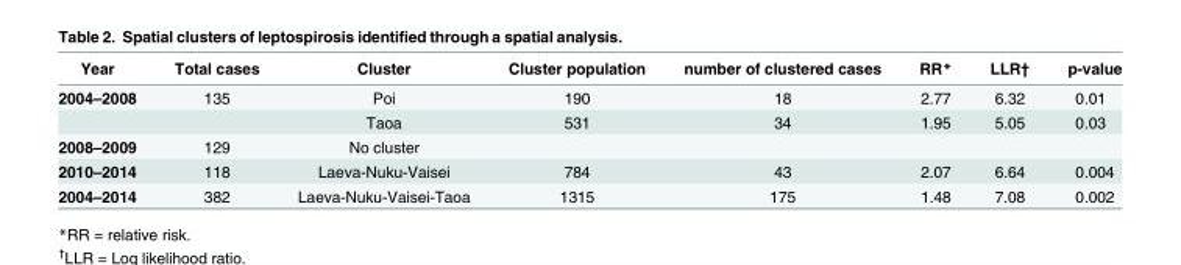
<table><thead><tr><td>Year</td><td>Total cases</td><td>Cluster</td><td>Cluster population</td><td>number of clustered cases</td><td>RR*</td><td>LLR†</td><td>p-value</td></tr></thead><tbody><tr><td rowspan="2">2004–2008</td><td>135</td><td>Poi</td><td>190</td><td>18</td><td>2.77</td><td>6.32</td><td>0.01</td></tr><tr><td></td><td>Taoa</td><td>531</td><td>34</td><td>1.95</td><td>5.05</td><td>0.03</td></tr><tr><td>2008–2009</td><td>129</td><td>No cluster</td><td></td><td></td><td></td><td></td><td></td></tr><tr><td>2010–2014</td><td>118</td><td>Laeva-Nuku-Vaisei</td><td>784</td><td>43</td><td>2.07</td><td>6.64</td><td>0.004</td></tr><tr><td>2004–2014</td><td>382</td><td>Laeva-Nuku-Vaisei-Taoa</td><td>1315</td><td>175</td><td>1.48</td><td>7.08</td><td>0.002</td></tr></tbody></table>